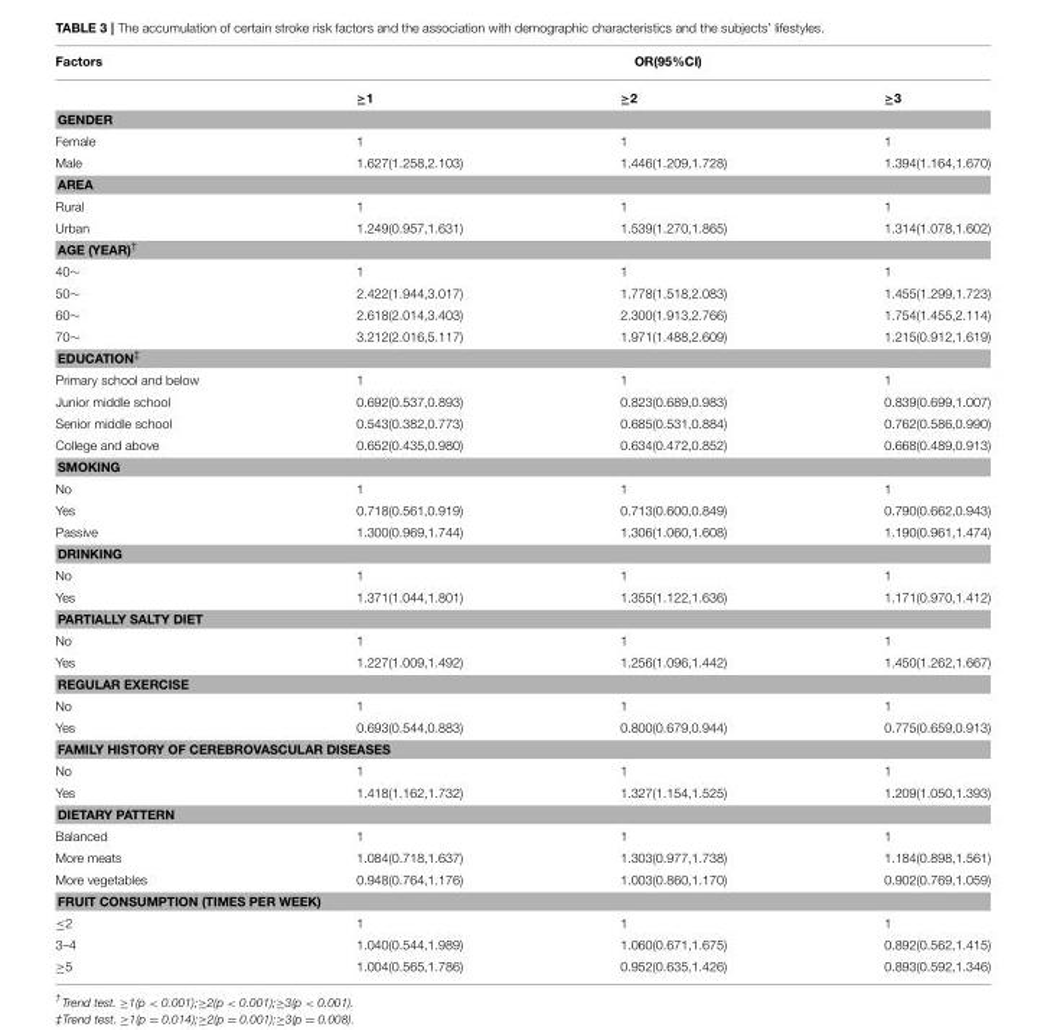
<table><thead><tr><td rowspan="2">Factors</td><td colspan="3">OR(95%CI)</td></tr><tr><td>≥1</td><td>≥2</td><td>≥3</td></tr></thead><tbody><tr><td colspan="4">GENDER</td></tr><tr><td>Female</td><td>1</td><td>1</td><td>1</td></tr><tr><td>Male</td><td>1.627(1.258,2.103)</td><td>1.446(1.209,1.728)</td><td>1.394(1.164,1.670)</td></tr><tr><td colspan="4">AREA</td></tr><tr><td>Rural</td><td>1</td><td>1</td><td>1</td></tr><tr><td>Urban</td><td>1.249(0.957,1.631)</td><td>1.539(1.270,1.865)</td><td>1.314(1.078,1.602)</td></tr><tr><td colspan="4">AGE (YEAR)<sup>†</sup></td></tr><tr><td>40∼</td><td>1</td><td>1</td><td>1</td></tr><tr><td>50∼</td><td>2.422(1.944,3.017)</td><td>1.778(1.518,2.083)</td><td>1.455(1.299,1.723)</td></tr><tr><td>60∼</td><td>2.618(2.014,3.403)</td><td>2.300(1.913,2.766)</td><td>1.754(1.455,2.114)</td></tr><tr><td>70∼</td><td>3.212(2.016,5.117)</td><td>1.971(1.488,2.609)</td><td>1.215(0.912,1.619)</td></tr><tr><td colspan="4">EDUCATION<sup>‡</sup></td></tr><tr><td>Primary school and below</td><td>1</td><td>1</td><td>1</td></tr><tr><td>Junior middle school</td><td>0.692(0.537,0.893)</td><td>0.823(0.689,0.983)</td><td>0.839(0.699,1.007)</td></tr><tr><td>Senior middle school</td><td>0.543(0.382,0.773)</td><td>0.685(0.531,0.884)</td><td>0.762(0.586,0.990)</td></tr><tr><td>College and above</td><td>0.652(0.435,0.980)</td><td>0.634(0.472,0.852)</td><td>0.668(0.489,0.913)</td></tr><tr><td colspan="4">SMOKING</td></tr><tr><td>No</td><td>1</td><td>1</td><td>1</td></tr><tr><td>Yes</td><td>0.718(0.561,0.919)</td><td>0.713(0.600,0.849)</td><td>0.790(0.662,0.943)</td></tr><tr><td>Passive</td><td>1.300(0.969,1.744)</td><td>1.306(1.060,1.608)</td><td>1.190(0.961,1.474)</td></tr><tr><td colspan="4">DRINKING</td></tr><tr><td>No</td><td>1</td><td>1</td><td>1</td></tr><tr><td>Yes</td><td>1.371(1.044,1.801)</td><td>1.355(1.122,1.636)</td><td>1.171(0.970,1.412)</td></tr><tr><td colspan="4">PARTIALLY SALTY DIET</td></tr><tr><td>No</td><td>1</td><td>1</td><td>1</td></tr><tr><td>Yes</td><td>1.227(1.009,1.492)</td><td>1.256(1.096,1.442)</td><td>1.450(1.262,1.667)</td></tr><tr><td colspan="4">REGULAR EXERCISE</td></tr><tr><td>No</td><td>1</td><td>1</td><td>1</td></tr><tr><td>Yes</td><td>0.693(0.544,0.883)</td><td>0.800(0.679,0.944)</td><td>0.775(0.659,0.913)</td></tr><tr><td colspan="4">FAMILY HISTORY OF CEREBROVASCULAR DISEASES</td></tr><tr><td>No</td><td>1</td><td>1</td><td>1</td></tr><tr><td>Yes</td><td>1.418(1.162,1.732)</td><td>1.327(1.154,1.525)</td><td>1.209(1.050,1.393)</td></tr><tr><td colspan="4">DIETARY PATTERN</td></tr><tr><td>Balanced</td><td>1</td><td>1</td><td>1</td></tr><tr><td>More meats</td><td>1.084(0.718,1.637)</td><td>1.303(0.977,1.738)</td><td>1.184(0.898,1.561)</td></tr><tr><td>More vegetables</td><td>0.948(0.764,1.176)</td><td>1.003(0.860,1.170)</td><td>0.902(0.769,1.059)</td></tr><tr><td colspan="4">FRUIT CONSUMPTION (TIMES PER WEEK)</td></tr><tr><td>≤2</td><td>1</td><td>1</td><td>1</td></tr><tr><td>3–4</td><td>1.040(0.544,1.989)</td><td>1.060(0.671,1.675)</td><td>0.892(0.562,1.415)</td></tr><tr><td>≥5</td><td>1.004(0.565,1.786)</td><td>0.952(0.635,1.426)</td><td>0.893(0.592,1.346)</td></tr></tbody></table>